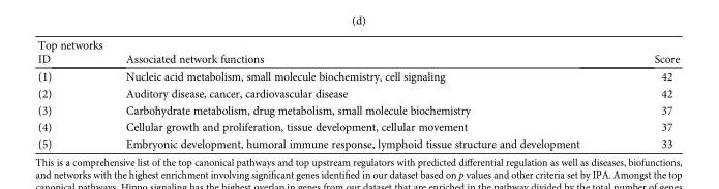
<table><thead><tr><td colspan="2">Top networks</td><td rowspan="2">Score</td></tr><tr><td>ID</td><td>Associated network functions</td></tr></thead><tbody><tr><td>(1)</td><td>Nucleic acid metabolism, small molecule biochemistry, cell signaling</td><td>42</td></tr><tr><td>(2)</td><td>Auditory disease, cancer, cardiovascular disease</td><td>42</td></tr><tr><td>(3)</td><td>Carbohydrate metabolism, drug metabolism, small molecule biochemistry</td><td>37</td></tr><tr><td>(4)</td><td>Cellular growth and proliferation, tissue development, cellular movement</td><td>37</td></tr><tr><td>(5)</td><td>Embryonic development, humoral immune response, lymphoid tissue structure and development</td><td>33</td></tr></tbody></table>